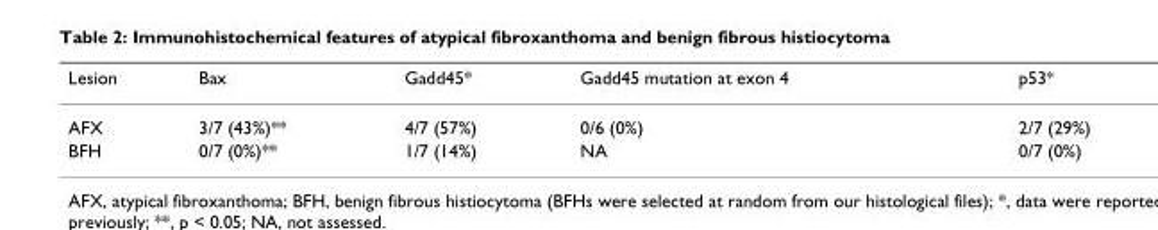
<table><thead><tr><td>Lesion</td><td>Bax</td><td>Gadd45*</td><td>Gadd45 mutation at exon 4</td><td>p53*</td></tr></thead><tbody><tr><td>AFX</td><td>3/7 (43%)**</td><td>4/7 (57%)</td><td>0/6 (0%)</td><td>2/7 (29%)</td></tr><tr><td>BFH</td><td>0/7 (0%)**</td><td>1/7 (14%)</td><td>NA</td><td>0/7 (0%)</td></tr></tbody></table>